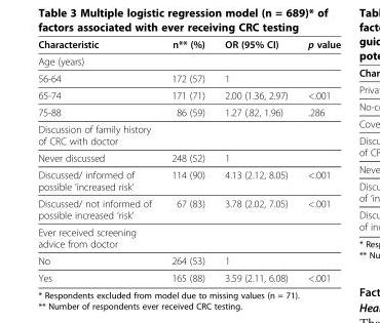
<table><thead><tr><td>Characteristic</td><td>n** (%)</td><td>OR (95% CI)</td><td>p value</td></tr></thead><tbody><tr><td colspan="4">Age (years)</td></tr><tr><td>56-64</td><td>172 (57)</td><td>1</td><td></td></tr><tr><td>65-74</td><td>171 (71)</td><td>2.00 (1.36, 2.97)</td><td>&lt;.001</td></tr><tr><td>75-88</td><td>86 (59)</td><td>1.27 (.82, 1.96)</td><td>.286</td></tr><tr><td colspan="4">Discussion of family history of CRC with doctor</td></tr><tr><td>Never discussed</td><td>248 (52)</td><td>1</td><td></td></tr><tr><td>Discussed/ informed of possible ‘increased risk’</td><td>114 (90)</td><td>4.13 (2.12, 8.05)</td><td>&lt;.001</td></tr><tr><td>Discussed/ not informed of possible increased ‘risk’</td><td>67 (83)</td><td>3.78 (2.02, 7.05)</td><td>&lt;.001</td></tr><tr><td colspan="4">Ever received screening advice from doctor</td></tr><tr><td>No</td><td>264 (53)</td><td>1</td><td></td></tr><tr><td>Yes</td><td>165 (88)</td><td>3.59 (2.11, 6.08)</td><td>&lt;.001</td></tr></tbody></table>